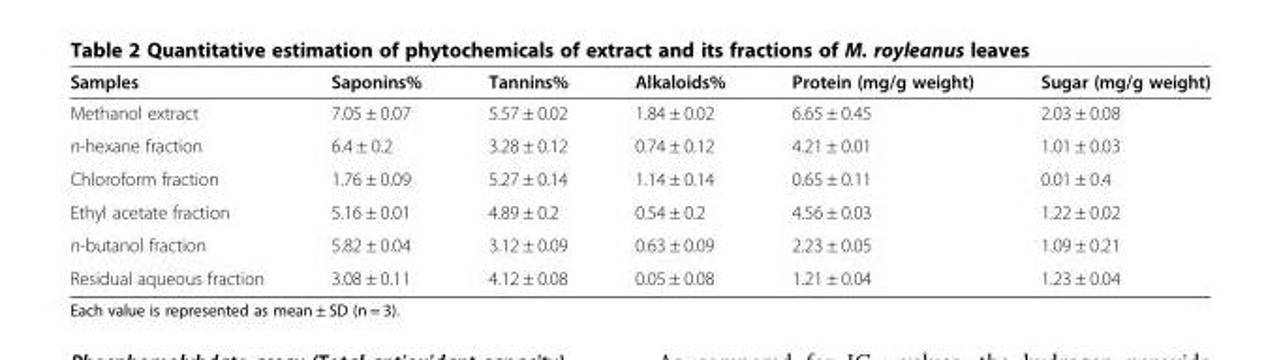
<table><thead><tr><td>Samples</td><td>Saponins%</td><td>Tannins%</td><td>Alkaloids%</td><td>Protein (mg/g weight)</td><td>Sugar (mg/g weight)</td></tr></thead><tbody><tr><td>Methanol extract</td><td>7.05 ± 0.07</td><td>5.57 ± 0.02</td><td>1.84 ± 0.02</td><td>6.65 ± 0.45</td><td>2.03 ± 0.08</td></tr><tr><td>n-hexane fraction</td><td>6.4 ± 0.2</td><td>3.28 ± 0.12</td><td>0.74 ± 0.12</td><td>4.21 ± 0.01</td><td>1.01 ± 0.03</td></tr><tr><td>Chloroform fraction</td><td>1.76 ± 0.09</td><td>5.27 ± 0.14</td><td>1.14 ± 0.14</td><td>0.65 ± 0.11</td><td>0.01 ± 0.4</td></tr><tr><td>Ethyl acetate fraction</td><td>5.16 ± 0.01</td><td>4.89 ± 0.2</td><td>0.54 ± 0.2</td><td>4.56 ± 0.03</td><td>1.22 ± 0.02</td></tr><tr><td>n-butanol fraction</td><td>5.82 ± 0.04</td><td>3.12 ± 0.09</td><td>0.63 ± 0.09</td><td>2.23 ± 0.05</td><td>1.09 ± 0.21</td></tr><tr><td>Residual aqueous fraction</td><td>3.08 ± 0.11</td><td>4.12 ± 0.08</td><td>0.05 ± 0.08</td><td>1.21 ± 0.04</td><td>1.23 ± 0.04</td></tr></tbody></table>